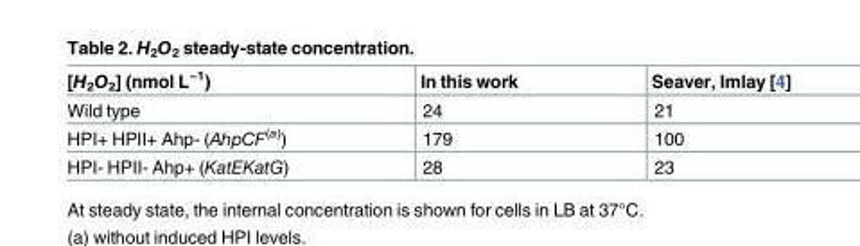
<table><thead><tr><td>[H<sub>2</sub>O<sub>2</sub>] (nmol L<sup>−1</sup>)</td><td>In this work</td><td>Seaver, Imlay [4]</td></tr></thead><tbody><tr><td>Wild type</td><td>24</td><td>21</td></tr><tr><td>HPI+ HPII+ Ahp- (AhpCF<sup>(a)</sup>)</td><td>179</td><td>100</td></tr><tr><td>HPI- HPII- Ahp+ (KatEKatG)</td><td>28</td><td>23</td></tr></tbody></table>